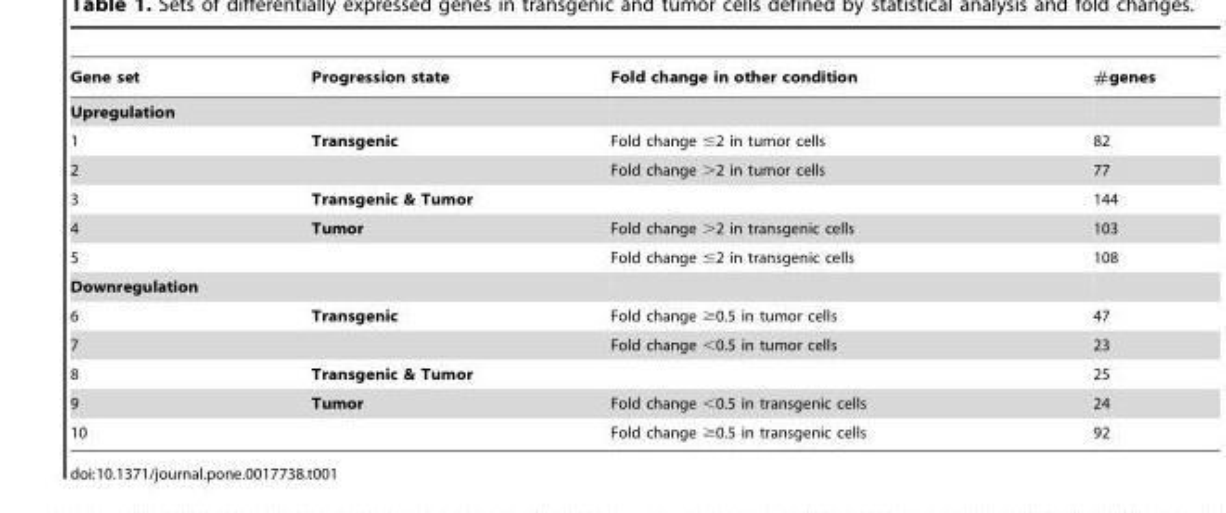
<table><thead><tr><td>Gene set</td><td>Progression state</td><td>Fold change in other condition</td><td>#genes</td></tr></thead><tbody><tr><td colspan="4">Upregulation</td></tr><tr><td>1</td><td>Transgenic</td><td>Fold change ≤2 in tumor cells</td><td>82</td></tr><tr><td>2</td><td></td><td>Fold change &gt;2 in tumor cells</td><td>77</td></tr><tr><td>3</td><td>Transgenic &amp; Tumor</td><td></td><td>144</td></tr><tr><td>4</td><td>Tumor</td><td>Fold change &gt;2 in transgenic cells</td><td>103</td></tr><tr><td>5</td><td></td><td>Fold change ≤2 in transgenic cells</td><td>108</td></tr><tr><td colspan="4">Downregulation</td></tr><tr><td>6</td><td>Transgenic</td><td>Fold change ≥0.5 in tumor cells</td><td>47</td></tr><tr><td>7</td><td></td><td>Fold change &lt;0.5 in tumor cells</td><td>23</td></tr><tr><td>8</td><td>Transgenic &amp; Tumor</td><td></td><td>25</td></tr><tr><td>9</td><td>Tumor</td><td>Fold change &lt;0.5 in transgenic cells</td><td>24</td></tr><tr><td>10</td><td></td><td>Fold change ≥0.5 in transgenic cells</td><td>92</td></tr></tbody></table>